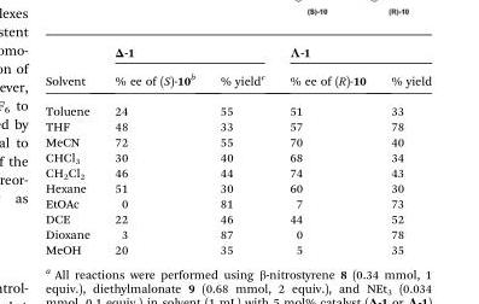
<table><thead><tr><td rowspan="2">Solvent</td><td colspan="2">Δ-1</td><td colspan="2">Λ-1</td></tr><tr><td>% ee of (S)-10<sup>b</sup></td><td>% yield<sup>c</sup></td><td>% ee of (R)-10</td><td>% yield</td></tr></thead><tbody><tr><td>Toluene</td><td>24</td><td>55</td><td>51</td><td>33</td></tr><tr><td>THF</td><td>48</td><td>33</td><td>57</td><td>78</td></tr><tr><td>MeCN</td><td>72</td><td>55</td><td>70</td><td>40</td></tr><tr><td>CHCl<sub>3</sub></td><td>30</td><td>40</td><td>68</td><td>34</td></tr><tr><td>CH<sub>2</sub>Cl<sub>2</sub></td><td>46</td><td>44</td><td>74</td><td>43</td></tr><tr><td>Hexane</td><td>51</td><td>30</td><td>60</td><td>30</td></tr><tr><td>EtOAc</td><td>0</td><td>81</td><td>7</td><td>73</td></tr><tr><td>DCE</td><td>22</td><td>46</td><td>44</td><td>52</td></tr><tr><td>Dioxane</td><td>3</td><td>87</td><td>0</td><td>78</td></tr><tr><td>MeOH</td><td>20</td><td>35</td><td>5</td><td>35</td></tr></tbody></table>